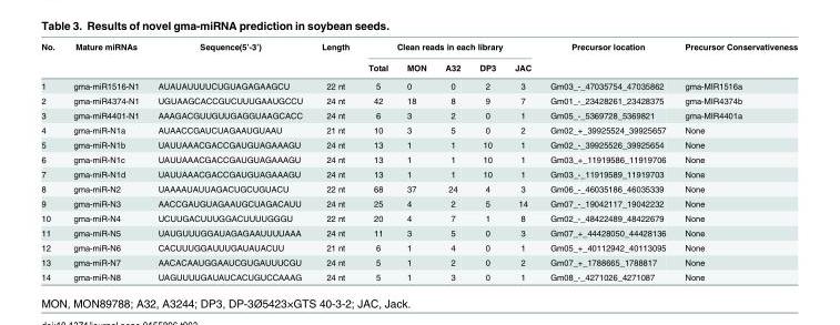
<table><thead><tr><td rowspan="2">No.</td><td rowspan="2">Mature miRNAs</td><td rowspan="2">Sequence(5’-3’)</td><td rowspan="2">Length</td><td colspan="5">Clean reads in each library</td><td rowspan="2">Precursor location</td><td rowspan="2">Precursor Conservativeness</td></tr><tr><td>Total</td><td>MON</td><td>A32</td><td>DP3</td><td>JAC</td></tr></thead><tbody><tr><td>1</td><td>gma-miR1516-N1</td><td>AUAUAUUUUCUGUAGAGAAGCU</td><td>22 nt</td><td>5</td><td>0</td><td>0</td><td>2</td><td>3</td><td>Gm03_-_47035754_47035862</td><td>gma-MIR1516a</td></tr><tr><td>2</td><td>gma-miR4374-N1</td><td>UGUAAGCACCGUCUUUGAAUGCCU</td><td>24 nt</td><td>42</td><td>18</td><td>8</td><td>9</td><td>7</td><td>Gm01_-_23428261_23428375</td><td>gma-MIR4374b</td></tr><tr><td>3</td><td>gma-miR4401-N1</td><td>AAAGACGUUGUUGAGGUAAGCACC</td><td>24 nt</td><td>6</td><td>3</td><td>2</td><td>0</td><td>1</td><td>Gm05_-_5369728_5369821</td><td>gma-MIR4401a</td></tr><tr><td>4</td><td>gma-miR-N1a</td><td>AUAACCGAUCUAGAAUGUAAU</td><td>21 nt</td><td>10</td><td>3</td><td>5</td><td>0</td><td>2</td><td>Gm02_+_39925524_39925657</td><td>None</td></tr><tr><td>5</td><td>gma-miR-N1b</td><td>UAUUAAACGACCGAUGUAGAAAGU</td><td>24 nt</td><td>13</td><td>1</td><td>1</td><td>10</td><td>1</td><td>Gm02_-_39925526_39925654</td><td>None</td></tr><tr><td>6</td><td>gma-miR-N1c</td><td>UAUUAAACGACCGAUGUAGAAAGU</td><td>24 nt</td><td>13</td><td>1</td><td>1</td><td>10</td><td>1</td><td>Gm03_+_11919586_11919706</td><td>None</td></tr><tr><td>7</td><td>gma-miR-N1d</td><td>UAUUAAACGACCGAUGUAGAAAGU</td><td>24 nt</td><td>13</td><td>1</td><td>1</td><td>10</td><td>1</td><td>Gm03_-_11919589_11919703</td><td>None</td></tr><tr><td>8</td><td>gma-miR-N2</td><td>UAAAAUAUUAGACUGCUGUACU</td><td>22 nt</td><td>68</td><td>37</td><td>24</td><td>4</td><td>3</td><td>Gm06_-_46035186_46035339</td><td>None</td></tr><tr><td>9</td><td>gma-miR-N3</td><td>AACCGAUGUAGAAUGCUAGACAUU</td><td>24 nt</td><td>25</td><td>4</td><td>2</td><td>5</td><td>14</td><td>Gm07_-_19042117_19042232</td><td>None</td></tr><tr><td>10</td><td>gma-miR-N4</td><td>UCUUGACUUUGGACUUUUGGGU</td><td>22 nt</td><td>20</td><td>4</td><td>7</td><td>1</td><td>8</td><td>Gm02_-_48422489_48422679</td><td>None</td></tr><tr><td>11</td><td>gma-miR-N5</td><td>UAUGUUUGGAUAGAGAAUUUUAAA</td><td>24 nt</td><td>11</td><td>3</td><td>5</td><td>0</td><td>3</td><td>Gm07_+_44428050_44428136</td><td>None</td></tr><tr><td>12</td><td>gma-miR-N6</td><td>CACUUUGGAUUUGAUAUACUU</td><td>21 nt</td><td>6</td><td>1</td><td>4</td><td>0</td><td>1</td><td>Gm05_+_40112942_40113095</td><td>None</td></tr><tr><td>13</td><td>gma-miR-N7</td><td>AACACAAUGGAAUCGUGAUUUCGU</td><td>24 nt</td><td>5</td><td>1</td><td>2</td><td>0</td><td>2</td><td>Gm07_+_1788665_1788817</td><td>None</td></tr><tr><td>14</td><td>gma-miR-N8</td><td>UAGUUUUGAUAUCACUGUCCAAAG</td><td>24 nt</td><td>5</td><td>1</td><td>3</td><td>0</td><td>1</td><td>Gm08_-_4271026_4271087</td><td>None</td></tr></tbody></table>